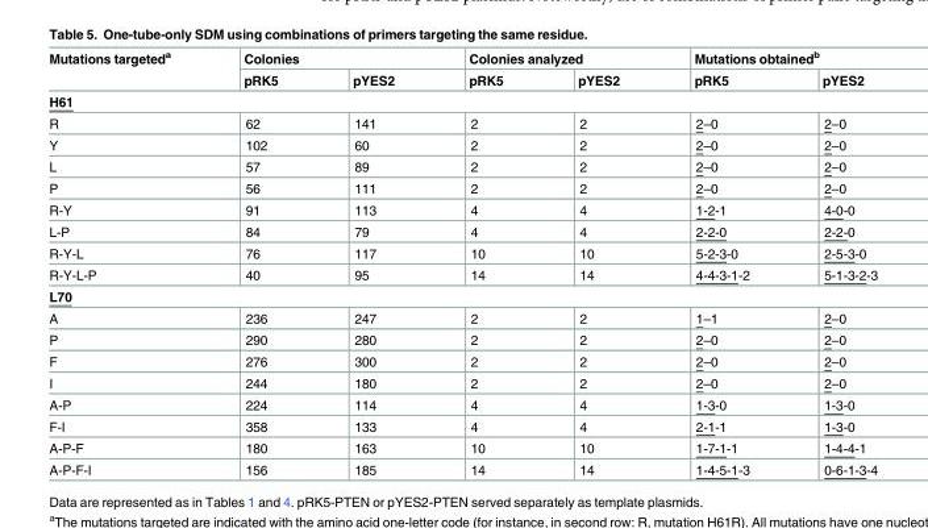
<table><thead><tr><td rowspan="2">Mutations targeted<sup>a</sup></td><td colspan="2">Colonies</td><td colspan="2">Colonies analyzed</td><td colspan="2">Mutations obtained<sup>b</sup></td></tr><tr><td>pRK5</td><td>pYES2</td><td>pRK5</td><td>pYES2</td><td>pRK5</td><td>pYES2</td></tr></thead><tbody><tr><td colspan="7">H61</td></tr><tr><td>R</td><td>62</td><td>141</td><td>2</td><td>2</td><td>2–0</td><td>2–0</td></tr><tr><td>Y</td><td>102</td><td>60</td><td>2</td><td>2</td><td>2–0</td><td>2–0</td></tr><tr><td>L</td><td>57</td><td>89</td><td>2</td><td>2</td><td>2–0</td><td>2–0</td></tr><tr><td>P</td><td>56</td><td>111</td><td>2</td><td>2</td><td>2–0</td><td>2–0</td></tr><tr><td>R-Y</td><td>91</td><td>113</td><td>4</td><td>4</td><td>1-2-1</td><td>4-0-0</td></tr><tr><td>L-P</td><td>84</td><td>79</td><td>4</td><td>4</td><td>2-2-0</td><td>2-2-0</td></tr><tr><td>R-Y-L</td><td>76</td><td>117</td><td>10</td><td>10</td><td>5-2-3-0</td><td>2-5-3-0</td></tr><tr><td>R-Y-L-P</td><td>40</td><td>95</td><td>14</td><td>14</td><td>4-4-3-1-2</td><td>5-1-3-2-3</td></tr><tr><td colspan="7">L70</td></tr><tr><td>A</td><td>236</td><td>247</td><td>2</td><td>2</td><td>1–1</td><td>2–0</td></tr><tr><td>P</td><td>290</td><td>280</td><td>2</td><td>2</td><td>2–0</td><td>2–0</td></tr><tr><td>F</td><td>276</td><td>300</td><td>2</td><td>2</td><td>2–0</td><td>2–0</td></tr><tr><td>I</td><td>244</td><td>180</td><td>2</td><td>2</td><td>2–0</td><td>2–0</td></tr><tr><td>A-P</td><td>224</td><td>114</td><td>4</td><td>4</td><td>1-3-0</td><td>1-3-0</td></tr><tr><td>F-I</td><td>358</td><td>133</td><td>4</td><td>4</td><td>2-1-1</td><td>1-3-0</td></tr><tr><td>A-P-F</td><td>180</td><td>163</td><td>10</td><td>10</td><td>1-7-1-1</td><td>1-4-4-1</td></tr><tr><td>A-P-F-I</td><td>156</td><td>185</td><td>14</td><td>14</td><td>1-4-5-1-3</td><td>0-6-1-3-4</td></tr></tbody></table>